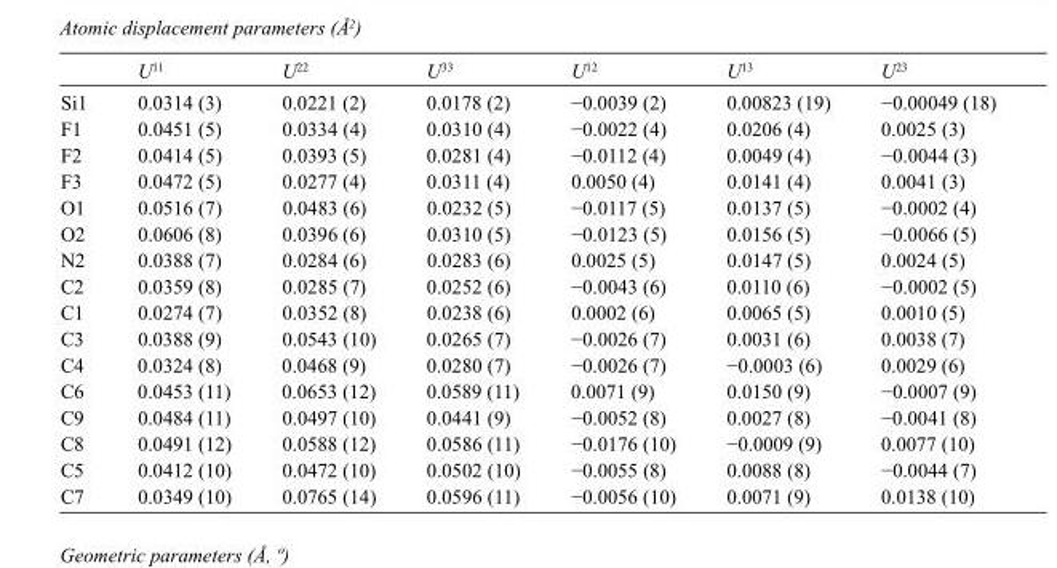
<table><thead><tr><td></td><td>U<sup>11</sup></td><td>U<sup>22</sup></td><td>U<sup>33</sup></td><td>U<sup>12</sup></td><td>U<sup>13</sup></td><td>U<sup>23</sup></td></tr></thead><tbody><tr><td>Si1</td><td>0.0314 (3)</td><td>0.0221 (2)</td><td>0.0178 (2)</td><td>−0.0039 (2)</td><td>0.00823 (19)</td><td>−0.00049 (18)</td></tr><tr><td>F1</td><td>0.0451 (5)</td><td>0.0334 (4)</td><td>0.0310 (4)</td><td>−0.0022 (4)</td><td>0.0206 (4)</td><td>0.0025 (3)</td></tr><tr><td>F2</td><td>0.0414 (5)</td><td>0.0393 (5)</td><td>0.0281 (4)</td><td>−0.0112 (4)</td><td>0.0049 (4)</td><td>−0.0044 (3)</td></tr><tr><td>F3</td><td>0.0472 (5)</td><td>0.0277 (4)</td><td>0.0311 (4)</td><td>0.0050 (4)</td><td>0.0141 (4)</td><td>0.0041 (3)</td></tr><tr><td>O1</td><td>0.0516 (7)</td><td>0.0483 (6)</td><td>0.0232 (5)</td><td>−0.0117 (5)</td><td>0.0137 (5)</td><td>−0.0002 (4)</td></tr><tr><td>O2</td><td>0.0606 (8)</td><td>0.0396 (6)</td><td>0.0310 (5)</td><td>−0.0123 (5)</td><td>0.0156 (5)</td><td>−0.0066 (5)</td></tr><tr><td>N2</td><td>0.0388 (7)</td><td>0.0284 (6)</td><td>0.0283 (6)</td><td>0.0025 (5)</td><td>0.0147 (5)</td><td>0.0024 (5)</td></tr><tr><td>C2</td><td>0.0359 (8)</td><td>0.0285 (7)</td><td>0.0252 (6)</td><td>−0.0043 (6)</td><td>0.0110 (6)</td><td>−0.0002 (5)</td></tr><tr><td>C1</td><td>0.0274 (7)</td><td>0.0352 (8)</td><td>0.0238 (6)</td><td>0.0002 (6)</td><td>0.0065 (5)</td><td>0.0010 (5)</td></tr><tr><td>C3</td><td>0.0388 (9)</td><td>0.0543 (10)</td><td>0.0265 (7)</td><td>−0.0026 (7)</td><td>0.0031 (6)</td><td>0.0038 (7)</td></tr><tr><td>C4</td><td>0.0324 (8)</td><td>0.0468 (9)</td><td>0.0280 (7)</td><td>−0.0026 (7)</td><td>−0.0003 (6)</td><td>0.0029 (6)</td></tr><tr><td>C6</td><td>0.0453 (11)</td><td>0.0653 (12)</td><td>0.0589 (11)</td><td>0.0071 (9)</td><td>0.0150 (9)</td><td>−0.0007 (9)</td></tr><tr><td>C9</td><td>0.0484 (11)</td><td>0.0497 (10)</td><td>0.0441 (9)</td><td>−0.0052 (8)</td><td>0.0027 (8)</td><td>−0.0041 (8)</td></tr><tr><td>C8</td><td>0.0491 (12)</td><td>0.0588 (12)</td><td>0.0586 (11)</td><td>−0.0176 (10)</td><td>−0.0009 (9)</td><td>0.0077 (10)</td></tr><tr><td>C5</td><td>0.0412 (10)</td><td>0.0472 (10)</td><td>0.0502 (10)</td><td>−0.0055 (8)</td><td>0.0088 (8)</td><td>−0.0044 (7)</td></tr><tr><td>C7</td><td>0.0349 (10)</td><td>0.0765 (14)</td><td>0.0596 (11)</td><td>−0.0056 (10)</td><td>0.0071 (9)</td><td>0.0138 (10)</td></tr></tbody></table>